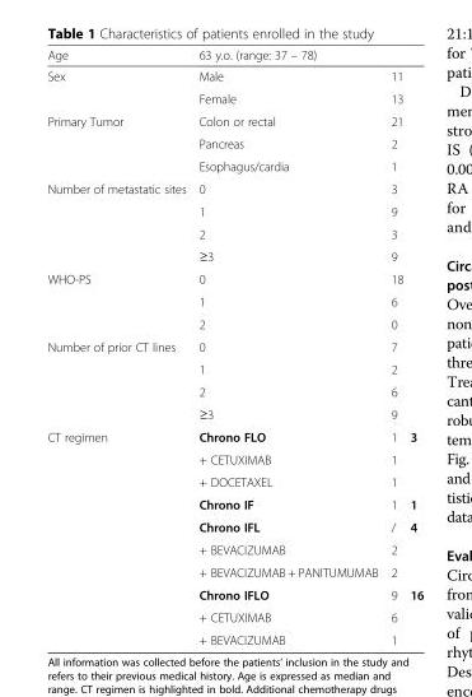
<table><thead><tr><td>Age</td><td colspan="3">63 y.o. (range: 37 – 78)</td></tr></thead><tbody><tr><td rowspan="2">Sex</td><td>Male</td><td colspan="2">11</td></tr><tr><td>Female</td><td colspan="2">13</td></tr><tr><td rowspan="3">Primary Tumor</td><td>Colon or rectal</td><td colspan="2">21</td></tr><tr><td>Pancreas</td><td colspan="2">2</td></tr><tr><td>Esophagus/cardia</td><td colspan="2">1</td></tr><tr><td rowspan="4">Number of metastatic sites</td><td>0</td><td colspan="2">3</td></tr><tr><td>1</td><td colspan="2">9</td></tr><tr><td>2</td><td colspan="2">3</td></tr><tr><td>≥3</td><td colspan="2">9</td></tr><tr><td rowspan="3">WHO-PS</td><td>0</td><td colspan="2">18</td></tr><tr><td>1</td><td colspan="2">6</td></tr><tr><td>2</td><td colspan="2">0</td></tr><tr><td rowspan="4">Number of prior CT lines</td><td>0</td><td colspan="2">7</td></tr><tr><td>1</td><td colspan="2">2</td></tr><tr><td>2</td><td colspan="2">6</td></tr><tr><td>≥3</td><td colspan="2">9</td></tr><tr><td rowspan="10">CT regimen</td><td>Chrono FLO</td><td>1</td><td rowspan="3">3</td></tr><tr><td>+ CETUXIMAB</td><td>1</td></tr><tr><td>+ DOCETAXEL</td><td>1</td></tr><tr><td>Chrono IF</td><td>1</td><td>1</td></tr><tr><td>Chrono IFL</td><td>/</td><td rowspan="3">4</td></tr><tr><td>+ BEVACIZUMAB</td><td>2</td></tr><tr><td>+ BEVACIZUMAB + PANITUMUMAB</td><td>2</td></tr><tr><td>Chrono IFLO</td><td>9</td><td rowspan="3">16</td></tr><tr><td>+ CETUXIMAB</td><td>6</td></tr><tr><td>+ BEVACIZUMAB</td><td>1</td></tr></tbody></table>